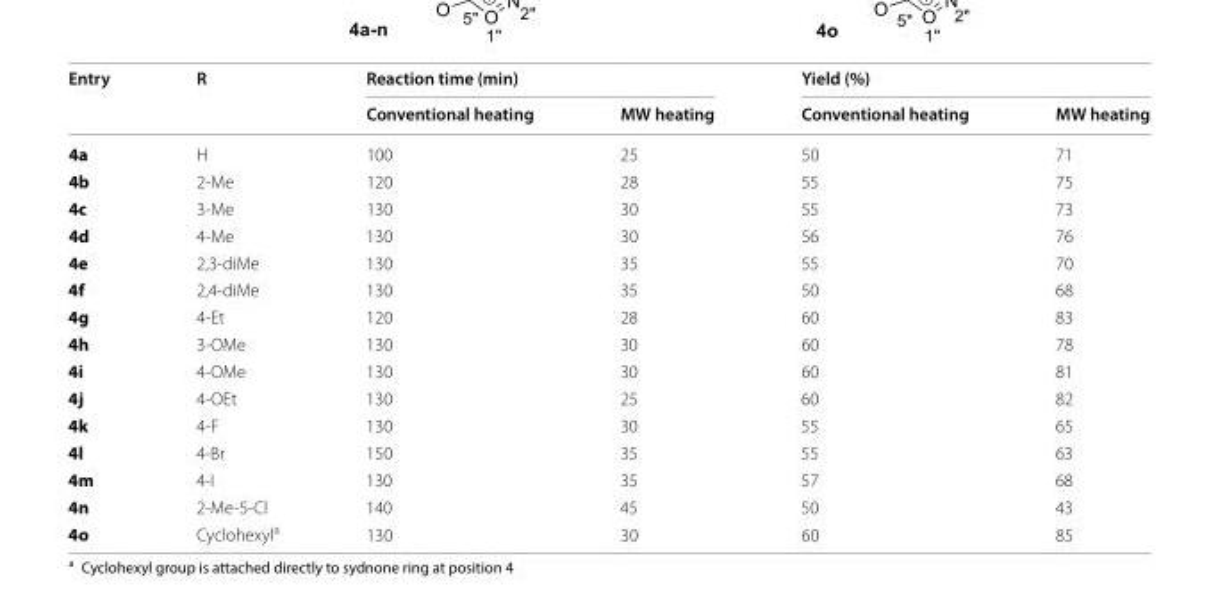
<table><thead><tr><td rowspan="2">Entry</td><td rowspan="2">R</td><td colspan="2">Reaction time (min)</td><td colspan="2">Yield (%)</td></tr><tr><td>Conventional heating</td><td>MW heating</td><td>Conventional heating</td><td>MW heating</td></tr></thead><tbody><tr><td>4a</td><td>H</td><td>100</td><td>25</td><td>50</td><td>71</td></tr><tr><td>4b</td><td>2-Me</td><td>120</td><td>28</td><td>55</td><td>75</td></tr><tr><td>4c</td><td>3-Me</td><td>130</td><td>30</td><td>55</td><td>73</td></tr><tr><td>4d</td><td>4-Me</td><td>130</td><td>30</td><td>56</td><td>76</td></tr><tr><td>4e</td><td>2,3-diMe</td><td>130</td><td>35</td><td>55</td><td>70</td></tr><tr><td>4f</td><td>2,4-diMe</td><td>130</td><td>35</td><td>50</td><td>68</td></tr><tr><td>4g</td><td>4-Et</td><td>120</td><td>28</td><td>60</td><td>83</td></tr><tr><td>4h</td><td>3-OMe</td><td>130</td><td>30</td><td>60</td><td>78</td></tr><tr><td>4i</td><td>4-OMe</td><td>130</td><td>30</td><td>60</td><td>81</td></tr><tr><td>4j</td><td>4-OEt</td><td>130</td><td>25</td><td>60</td><td>82</td></tr><tr><td>4k</td><td>4-F</td><td>130</td><td>30</td><td>55</td><td>65</td></tr><tr><td>4l</td><td>4-Br</td><td>150</td><td>35</td><td>55</td><td>63</td></tr><tr><td>4m</td><td>4-I</td><td>130</td><td>35</td><td>57</td><td>68</td></tr><tr><td>4n</td><td>2-Me-5-Cl</td><td>140</td><td>45</td><td>50</td><td>43</td></tr><tr><td>4o</td><td>Cyclohexyl<sup>a</sup></td><td>130</td><td>30</td><td>60</td><td>85</td></tr></tbody></table>